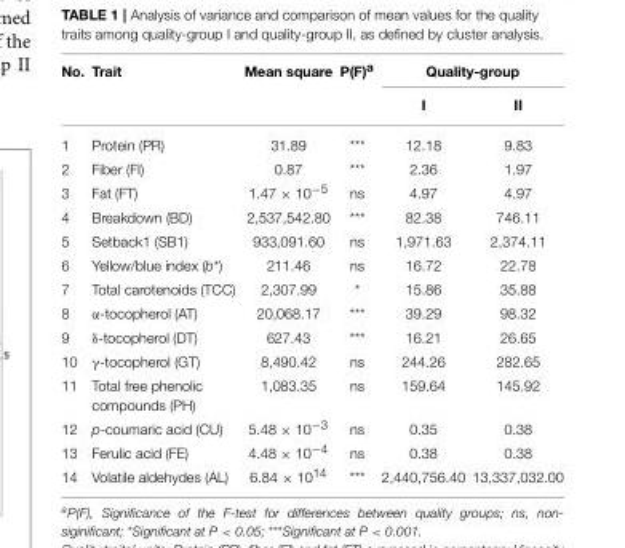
<table><thead><tr><td rowspan="2">No.</td><td rowspan="2">Trait</td><td rowspan="2">Mean square</td><td rowspan="2">P(F)<sup>a</sup></td><td colspan="2">Quality-group</td></tr><tr><td>I</td><td>II</td></tr></thead><tbody><tr><td>1</td><td>Protein (PR)</td><td>31.89</td><td>***</td><td>12.18</td><td>9.83</td></tr><tr><td>2</td><td>Fiber (FI)</td><td>0.87</td><td>***</td><td>2.36</td><td>1.97</td></tr><tr><td>3</td><td>Fat (FT)</td><td>1.47 × 10<sup>−5</sup></td><td>ns</td><td>4.97</td><td>4.97</td></tr><tr><td>4</td><td>Breakdown (BD)</td><td>2,537,542.80</td><td>***</td><td>82.38</td><td>746.11</td></tr><tr><td>5</td><td>Setback1 (SB1)</td><td>933,091.60</td><td>ns</td><td>1,971.63</td><td>2,374.11</td></tr><tr><td>6</td><td>Yellow/blue index (b*)</td><td>211.46</td><td>ns</td><td>16.72</td><td>22.78</td></tr><tr><td>7</td><td>Total carotenoids (TCC)</td><td>2,307.99</td><td>*</td><td>15.86</td><td>35.88</td></tr><tr><td>8</td><td>α-tocopherol (AT)</td><td>20,068.17</td><td>***</td><td>39.29</td><td>98.32</td></tr><tr><td>9</td><td>δ-tocopherol (DT)</td><td>627.43</td><td>***</td><td>16.21</td><td>26.65</td></tr><tr><td>10</td><td>γ-tocopherol (GT)</td><td>8,490.42</td><td>ns</td><td>244.26</td><td>282.65</td></tr><tr><td>11</td><td>Total free phenolic compounds (PH)</td><td>1,083.35</td><td>ns</td><td>159.64</td><td>145.92</td></tr><tr><td>12</td><td>p-coumaric acid (CU)</td><td>5.48 × 10<sup>−3</sup></td><td>ns</td><td>0.35</td><td>0.38</td></tr><tr><td>13</td><td>Ferulic acid (FE)</td><td>4.48 × 10<sup>−4</sup></td><td>ns</td><td>0.38</td><td>0.38</td></tr><tr><td>14</td><td>Volatile aldehydes (AL)</td><td>6.84 × 10<sup>14</sup></td><td>***</td><td>2,440,756.40</td><td>13,337,032.00</td></tr></tbody></table>